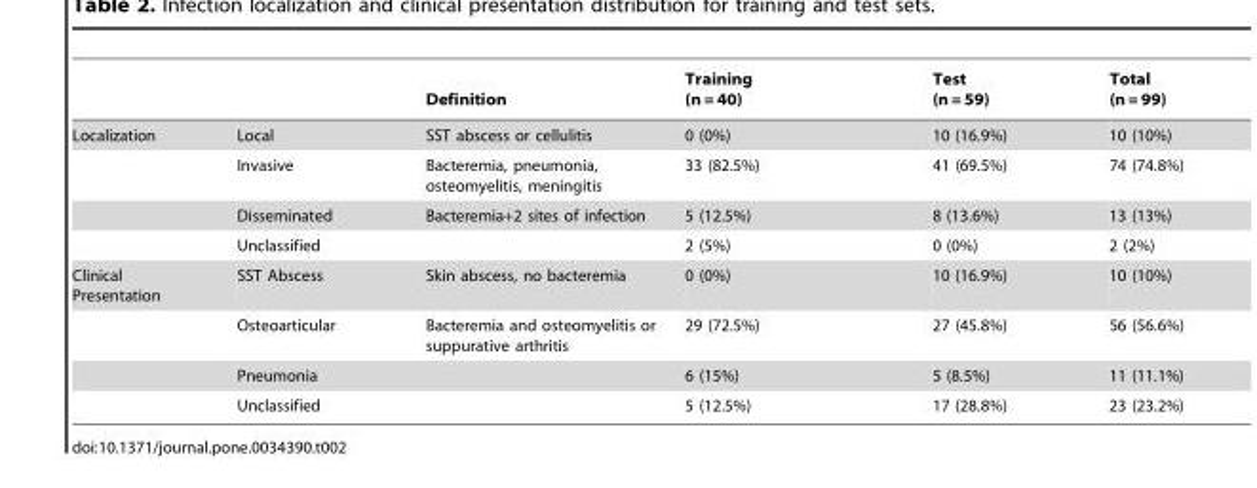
<table><thead><tr><td></td><td></td><td>Definition</td><td>Training (n = 40)</td><td>Test (n = 59)</td><td>Total (n = 99)</td></tr></thead><tbody><tr><td rowspan="4">Localization</td><td>Local</td><td>SST abscess or cellulitis</td><td>0 (0%)</td><td>10 (16.9%)</td><td>10 (10%)</td></tr><tr><td>Invasive</td><td>Bacteremia, pneumonia, osteomyelitis, meningitis</td><td>33 (82.5%)</td><td>41 (69.5%)</td><td>74 (74.8%)</td></tr><tr><td>Disseminated</td><td>Bacteremia+2 sites of infection</td><td>5 (12.5%)</td><td>8 (13.6%)</td><td>13 (13%)</td></tr><tr><td>Unclassified</td><td></td><td>2 (5%)</td><td>0 (0%)</td><td>2 (2%)</td></tr><tr><td rowspan="4">Clinical Presentation</td><td>SST Abscess</td><td>Skin abscess, no bacteremia</td><td>0 (0%)</td><td>10 (16.9%)</td><td>10 (10%)</td></tr><tr><td>Osteoarticular</td><td>Bacteremia and osteomyelitis or suppurative arthritis</td><td>29 (72.5%)</td><td>27 (45.8%)</td><td>56 (56.6%)</td></tr><tr><td>Pneumonia</td><td></td><td>6 (15%)</td><td>5 (8.5%)</td><td>11 (11.1%)</td></tr><tr><td>Unclassified</td><td></td><td>5 (12.5%)</td><td>17 (28.8%)</td><td>23 (23.2%)</td></tr></tbody></table>